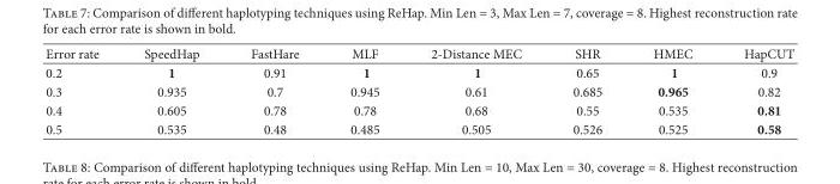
<table><thead><tr><td>Error rate</td><td>SpeedHap</td><td>FastHare</td><td>MLF</td><td>2-Distance MEC</td><td>SHR</td><td>HMEC</td><td>HapCUT</td></tr></thead><tbody><tr><td>0.2</td><td>1</td><td>0.91</td><td>1</td><td>1</td><td>0.65</td><td>1</td><td>0.9</td></tr><tr><td>0.3</td><td>0.935</td><td>0.7</td><td>0.945</td><td>0.61</td><td>0.685</td><td>0.965</td><td>0.82</td></tr><tr><td>0.4</td><td>0.605</td><td>0.78</td><td>0.78</td><td>0.68</td><td>0.55</td><td>0.535</td><td>0.81</td></tr><tr><td>0.5</td><td>0.535</td><td>0.48</td><td>0.485</td><td>0.505</td><td>0.526</td><td>0.525</td><td>0.58</td></tr></tbody></table>